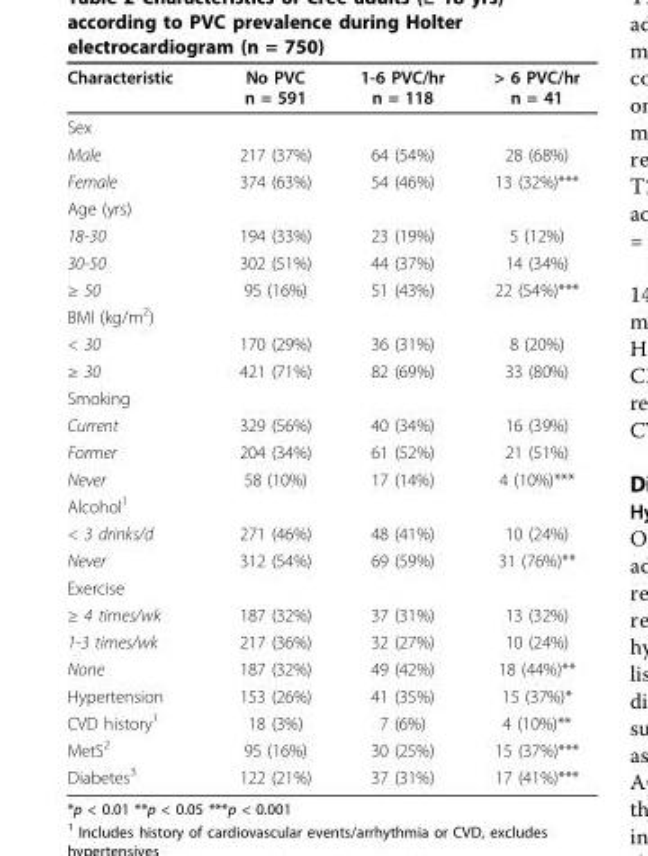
<table><thead><tr><td>Characteristic</td><td>No PVC n = 591</td><td>1-6 PVC/hr n = 118</td><td>&gt; 6 PVC/hr n = 41</td></tr></thead><tbody><tr><td colspan="4">Sex</td></tr><tr><td>Male</td><td>217 (37%)</td><td>64 (54%)</td><td>28 (68%)</td></tr><tr><td>Female</td><td>374 (63%)</td><td>54 (46%)</td><td>13 (32%)***</td></tr><tr><td colspan="4">Age (yrs)</td></tr><tr><td>18-30</td><td>194 (33%)</td><td>23 (19%)</td><td>5 (12%)</td></tr><tr><td>30-50</td><td>302 (51%)</td><td>44 (37%)</td><td>14 (34%)</td></tr><tr><td>≥ 50</td><td>95 (16%)</td><td>51 (43%)</td><td>22 (54%)***</td></tr><tr><td colspan="4">BMI (kg/m<sup>2</sup>)</td></tr><tr><td>&lt; 30</td><td>170 (29%)</td><td>36 (31%)</td><td>8 (20%)</td></tr><tr><td>≥ 30</td><td>421 (71%)</td><td>82 (69%)</td><td>33 (80%)</td></tr><tr><td colspan="4">Smoking</td></tr><tr><td>Current</td><td>329 (56%)</td><td>40 (34%)</td><td>16 (39%)</td></tr><tr><td>Former</td><td>204 (34%)</td><td>61 (52%)</td><td>21 (51%)</td></tr><tr><td>Never</td><td>58 (10%)</td><td>17 (14%)</td><td>4 (10%)***</td></tr><tr><td colspan="4">Alcohol<sup>1</sup></td></tr><tr><td>&lt; 3 drinks/d</td><td>271 (46%)</td><td>48 (41%)</td><td>10 (24%)</td></tr><tr><td>Never</td><td>312 (54%)</td><td>69 (59%)</td><td>31 (76%)**</td></tr><tr><td colspan="4">Exercise</td></tr><tr><td>≥ 4 times/wk</td><td>187 (32%)</td><td>37 (31%)</td><td>13 (32%)</td></tr><tr><td>1-3 times/wk</td><td>217 (36%)</td><td>32 (27%)</td><td>10 (24%)</td></tr><tr><td>None</td><td>187 (32%)</td><td>49 (42%)</td><td>18 (44%)**</td></tr><tr><td>Hypertension</td><td>153 (26%)</td><td>41 (35%)</td><td>15 (37%)*</td></tr><tr><td>CVD history<sup>1</sup></td><td>18 (3%)</td><td>7 (6%)</td><td>4 (10%)**</td></tr><tr><td>MetS<sup>2</sup></td><td>95 (16%)</td><td>30 (25%)</td><td>15 (37%)***</td></tr><tr><td>Diabetes<sup>3</sup></td><td>122 (21%)</td><td>37 (31%)</td><td>17 (41%)***</td></tr></tbody></table>